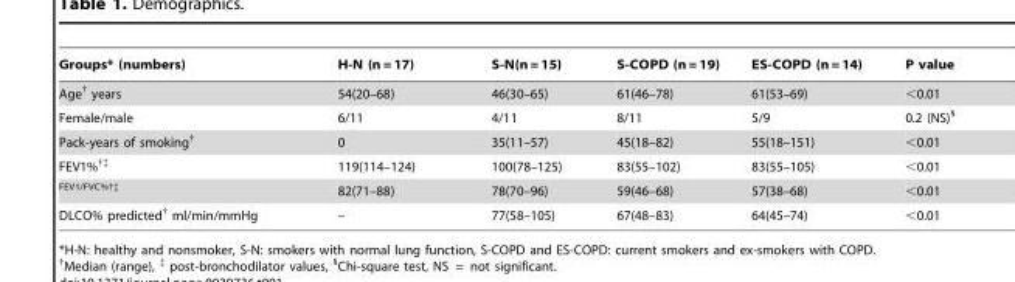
<table><thead><tr><td>Groups* (numbers)</td><td>H-N (n = 17)</td><td>S-N(n = 15)</td><td>S-COPD (n = 19)</td><td>ES-COPD (n = 14)</td><td>P value</td></tr></thead><tbody><tr><td>Age† years</td><td>54(20–68)</td><td>46(30–65)</td><td>61(46–78)</td><td>61(53–69)</td><td>&lt;0.01</td></tr><tr><td>Female/male</td><td>6/11</td><td>4/11</td><td>8/11</td><td>5/9</td><td>0.2 (NS)<sup>§</sup></td></tr><tr><td>Pack-years of smoking†</td><td>0</td><td>35(11–57)</td><td>45(18–82)</td><td>55(18–151)</td><td>&lt;0.01</td></tr><tr><td>FEV1%†<sup>‡</sup></td><td>119(114–124)</td><td>100(78–125)</td><td>83(55–102)</td><td>83(55–105)</td><td>&lt;0.01</td></tr><tr><td><sup>FEV1/FVC%</sup>†<sup>‡</sup></td><td>82(71–88)</td><td>78(70–96)</td><td>59(46–68)</td><td>57(38–68)</td><td>&lt;0.01</td></tr><tr><td>DLCO% predicted† ml/min/mmHg</td><td>–</td><td>77(58–105)</td><td>67(48–83)</td><td>64(45–74)</td><td>&lt;0.01</td></tr></tbody></table>